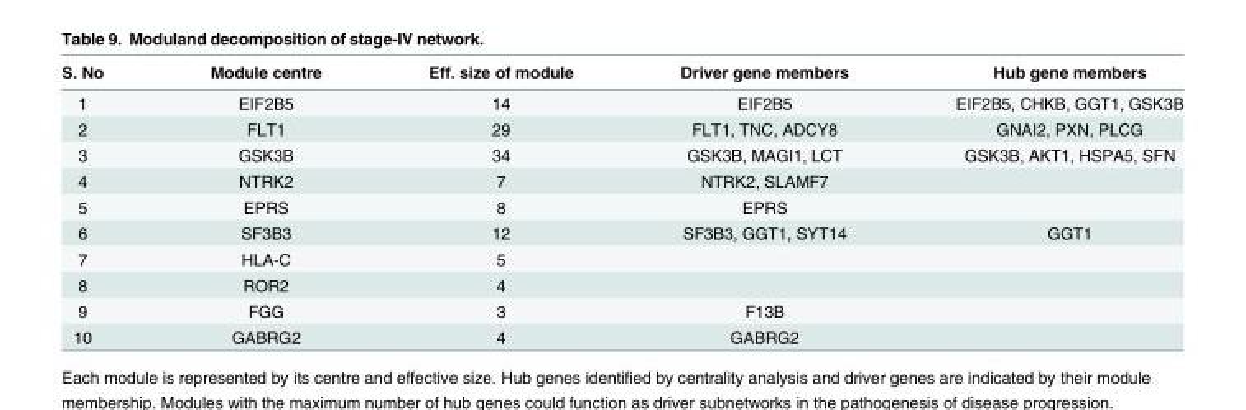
<table><thead><tr><td>S. No</td><td>Module centre</td><td>Eff. size of module</td><td>Driver gene members</td><td>Hub gene members</td></tr></thead><tbody><tr><td>1</td><td>EIF2B5</td><td>14</td><td>EIF2B5</td><td>EIF2B5, CHKB, GGT1, GSK3B</td></tr><tr><td>2</td><td>FLT1</td><td>29</td><td>FLT1, TNC, ADCY8</td><td>GNAI2, PXN, PLCG</td></tr><tr><td>3</td><td>GSK3B</td><td>34</td><td>GSK3B, MAGI1, LCT</td><td>GSK3B, AKT1, HSPA5, SFN</td></tr><tr><td>4</td><td>NTRK2</td><td>7</td><td>NTRK2, SLAMF7</td><td></td></tr><tr><td>5</td><td>EPRS</td><td>8</td><td>EPRS</td><td></td></tr><tr><td>6</td><td>SF3B3</td><td>12</td><td>SF3B3, GGT1, SYT14</td><td>GGT1</td></tr><tr><td>7</td><td>HLA-C</td><td>5</td><td></td><td></td></tr><tr><td>8</td><td>ROR2</td><td>4</td><td></td><td></td></tr><tr><td>9</td><td>FGG</td><td>3</td><td>F13B</td><td></td></tr><tr><td>10</td><td>GABRG2</td><td>4</td><td>GABRG2</td><td></td></tr></tbody></table>